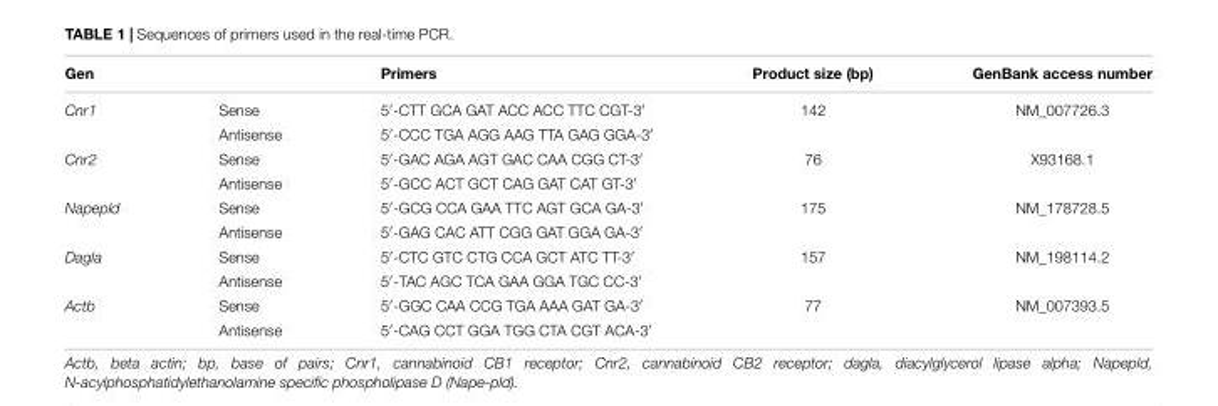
<table><thead><tr><td>Gen</td><td></td><td>Primers</td><td>Product size (bp)</td><td>GenBank access number</td></tr></thead><tbody><tr><td rowspan="2">Cnr1</td><td>Sense</td><td>5′-CTT GCA GAT ACC ACC TTC CGT-3′</td><td>142</td><td>NM_007726.3</td></tr><tr><td>Antisense</td><td>5′-CCC TGA AGG AAG TTA GAG GGA-3′</td><td></td><td></td></tr><tr><td rowspan="2">Cnr2</td><td>Sense</td><td>5′-GAC AGA AGT GAC CAA CGG CT-3′</td><td>76</td><td>X93168.1</td></tr><tr><td>Antisense</td><td>5′-GCC ACT GCT CAG GAT CAT GT-3′</td><td></td><td></td></tr><tr><td rowspan="2">Napepld</td><td>Sense</td><td>5′-GCG CCA GAA TTC AGT GCA GA-3′</td><td>175</td><td>NM_178728.5</td></tr><tr><td>Antisense</td><td>5′-GAG CAC ATT CGG GAT GGA GA-3′</td><td></td><td></td></tr><tr><td rowspan="2">Dagla</td><td>Sense</td><td>5′-CTC GTC CTG CCA GCT ATC TT-3′</td><td>157</td><td>NM_198114.2</td></tr><tr><td>Antisense</td><td>5′-TAC AGC TCA GAA GGA TGC CC-3′</td><td></td><td></td></tr><tr><td rowspan="2">Actb</td><td>Sense</td><td>5′-GGC CAA CCG TGA AAA GAT GA-3′</td><td>77</td><td>NM_007393.5</td></tr><tr><td>Antisense</td><td>5′-CAG CCT GGA TGG CTA CGT ACA-3′</td><td></td><td></td></tr></tbody></table>